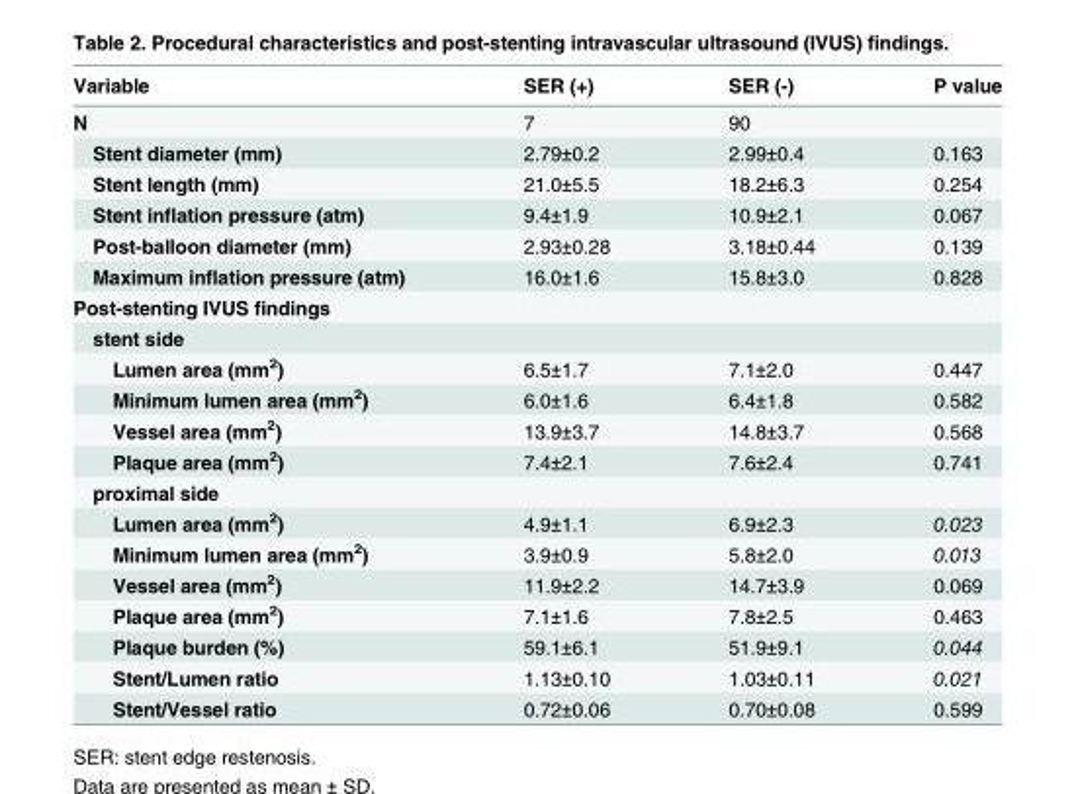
<table><thead><tr><td>Variable</td><td>SER (+)</td><td>SER (-)</td><td>P value</td></tr></thead><tbody><tr><td>N</td><td>7</td><td>90</td><td></td></tr><tr><td>Stent diameter (mm)</td><td>2.79±0.2</td><td>2.99±0.4</td><td>0.163</td></tr><tr><td>Stent length (mm)</td><td>21.0±5.5</td><td>18.2±6.3</td><td>0.254</td></tr><tr><td>Stent inflation pressure (atm)</td><td>9.4±1.9</td><td>10.9±2.1</td><td>0.067</td></tr><tr><td>Post-balloon diameter (mm)</td><td>2.93±0.28</td><td>3.18±0.44</td><td>0.139</td></tr><tr><td>Maximum inflation pressure (atm)</td><td>16.0±1.6</td><td>15.8±3.0</td><td>0.828</td></tr><tr><td colspan="4">Post-stenting IVUS findings</td></tr><tr><td colspan="4">stent side</td></tr><tr><td>Lumen area (mm<sup>2</sup>)</td><td>6.5±1.7</td><td>7.1±2.0</td><td>0.447</td></tr><tr><td>Minimum lumen area (mm<sup>2</sup>)</td><td>6.0±1.6</td><td>6.4±1.8</td><td>0.582</td></tr><tr><td>Vessel area (mm<sup>2</sup>)</td><td>13.9±3.7</td><td>14.8±3.7</td><td>0.568</td></tr><tr><td>Plaque area (mm<sup>2</sup>)</td><td>7.4±2.1</td><td>7.6±2.4</td><td>0.741</td></tr><tr><td colspan="4">proximal side</td></tr><tr><td>Lumen area (mm<sup>2</sup>)</td><td>4.9±1.1</td><td>6.9±2.3</td><td>0.023</td></tr><tr><td>Minimum lumen area (mm<sup>2</sup>)</td><td>3.9±0.9</td><td>5.8±2.0</td><td>0.013</td></tr><tr><td>Vessel area (mm<sup>2</sup>)</td><td>11.9±2.2</td><td>14.7±3.9</td><td>0.069</td></tr><tr><td>Plaque area (mm<sup>2</sup>)</td><td>7.1±1.6</td><td>7.8±2.5</td><td>0.463</td></tr><tr><td>Plaque burden (%)</td><td>59.1±6.1</td><td>51.9±9.1</td><td>0.044</td></tr><tr><td>Stent/Lumen ratio</td><td>1.13±0.10</td><td>1.03±0.11</td><td>0.021</td></tr><tr><td>Stent/Vessel ratio</td><td>0.72±0.06</td><td>0.70±0.08</td><td>0.599</td></tr></tbody></table>